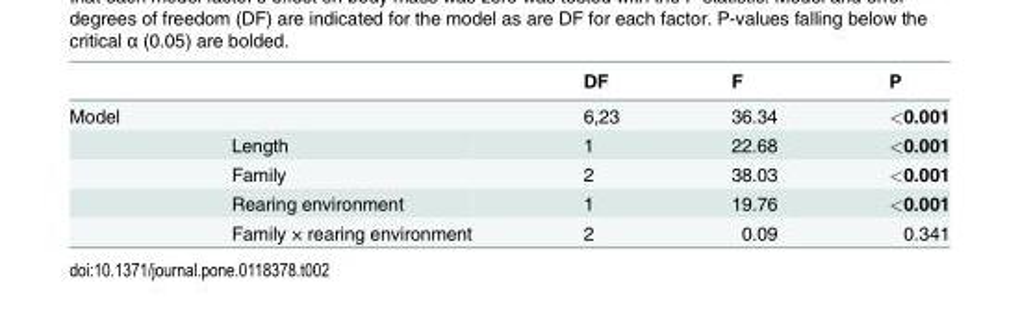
<table><thead><tr><td></td><td></td><td>DF</td><td>F</td><td>P</td></tr></thead><tbody><tr><td rowspan="5">Model</td><td></td><td>6,23</td><td>36.34</td><td>&lt;0.001</td></tr><tr><td>Length</td><td>1</td><td>22.68</td><td>&lt;0.001</td></tr><tr><td>Family</td><td>2</td><td>38.03</td><td>&lt;0.001</td></tr><tr><td>Rearing environment</td><td>1</td><td>19.76</td><td>&lt;0.001</td></tr><tr><td>Family × rearing environment</td><td>2</td><td>0.09</td><td>0.341</td></tr></tbody></table>